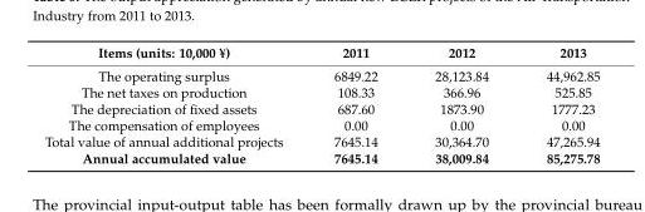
<table><thead><tr><td>Items (units: 10,000 ¥)</td><td>2011</td><td>2012</td><td>2013</td></tr></thead><tbody><tr><td>The operating surplus</td><td>6849.22</td><td>28,123.84</td><td>44,962.85</td></tr><tr><td>The net taxes on production</td><td>108.33</td><td>366.96</td><td>525.85</td></tr><tr><td>The depreciation of fixed assets</td><td>687.60</td><td>1873.90</td><td>1777.23</td></tr><tr><td>The compensation of employees</td><td>0.00</td><td>0.00</td><td>0.00</td></tr><tr><td>Total value of annual additional projects</td><td>7645.14</td><td>30,364.70</td><td>47,265.94</td></tr><tr><td>Annual accumulated value</td><td>7645.14</td><td>38,009.84</td><td>85,275.78</td></tr></tbody></table>